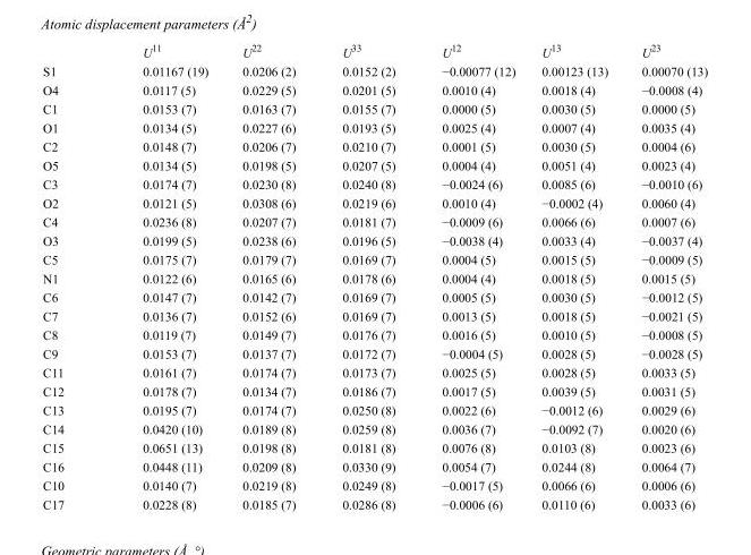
<table><thead><tr><td></td><td>U<sup>11</sup></td><td>U<sup>22</sup></td><td>U<sup>33</sup></td><td>U<sup>12</sup></td><td>U<sup>13</sup></td><td>U<sup>23</sup></td></tr></thead><tbody><tr><td>S1</td><td>0.01167 (19)</td><td>0.0206 (2)</td><td>0.0152 (2)</td><td>−0.00077 (12)</td><td>0.00123 (13)</td><td>0.00070 (13)</td></tr><tr><td>O4</td><td>0.0117 (5)</td><td>0.0229 (5)</td><td>0.0201 (5)</td><td>0.0010 (4)</td><td>0.0018 (4)</td><td>−0.0008 (4)</td></tr><tr><td>C1</td><td>0.0153 (7)</td><td>0.0163 (7)</td><td>0.0155 (7)</td><td>0.0000 (5)</td><td>0.0030 (5)</td><td>0.0000 (5)</td></tr><tr><td>O1</td><td>0.0134 (5)</td><td>0.0227 (6)</td><td>0.0193 (5)</td><td>0.0025 (4)</td><td>0.0007 (4)</td><td>0.0035 (4)</td></tr><tr><td>C2</td><td>0.0148 (7)</td><td>0.0206 (7)</td><td>0.0210 (7)</td><td>0.0001 (5)</td><td>0.0030 (5)</td><td>0.0004 (6)</td></tr><tr><td>O5</td><td>0.0134 (5)</td><td>0.0198 (5)</td><td>0.0207 (5)</td><td>0.0004 (4)</td><td>0.0051 (4)</td><td>0.0023 (4)</td></tr><tr><td>C3</td><td>0.0174 (7)</td><td>0.0230 (8)</td><td>0.0240 (8)</td><td>−0.0024 (6)</td><td>0.0085 (6)</td><td>−0.0010 (6)</td></tr><tr><td>O2</td><td>0.0121 (5)</td><td>0.0308 (6)</td><td>0.0219 (6)</td><td>0.0010 (4)</td><td>−0.0002 (4)</td><td>0.0060 (4)</td></tr><tr><td>C4</td><td>0.0236 (8)</td><td>0.0207 (7)</td><td>0.0181 (7)</td><td>−0.0009 (6)</td><td>0.0066 (6)</td><td>0.0007 (6)</td></tr><tr><td>O3</td><td>0.0199 (5)</td><td>0.0238 (6)</td><td>0.0196 (5)</td><td>−0.0038 (4)</td><td>0.0033 (4)</td><td>−0.0037 (4)</td></tr><tr><td>C5</td><td>0.0175 (7)</td><td>0.0179 (7)</td><td>0.0169 (7)</td><td>0.0004 (5)</td><td>0.0015 (5)</td><td>−0.0009 (5)</td></tr><tr><td>N1</td><td>0.0122 (6)</td><td>0.0165 (6)</td><td>0.0178 (6)</td><td>0.0004 (4)</td><td>0.0018 (5)</td><td>0.0015 (5)</td></tr><tr><td>C6</td><td>0.0147 (7)</td><td>0.0142 (7)</td><td>0.0169 (7)</td><td>0.0005 (5)</td><td>0.0030 (5)</td><td>−0.0012 (5)</td></tr><tr><td>C7</td><td>0.0136 (7)</td><td>0.0152 (6)</td><td>0.0169 (7)</td><td>0.0013 (5)</td><td>0.0018 (5)</td><td>−0.0021 (5)</td></tr><tr><td>C8</td><td>0.0119 (7)</td><td>0.0149 (7)</td><td>0.0176 (7)</td><td>0.0016 (5)</td><td>0.0010 (5)</td><td>−0.0008 (5)</td></tr><tr><td>C9</td><td>0.0153 (7)</td><td>0.0137 (7)</td><td>0.0172 (7)</td><td>−0.0004 (5)</td><td>0.0028 (5)</td><td>−0.0028 (5)</td></tr><tr><td>C11</td><td>0.0161 (7)</td><td>0.0174 (7)</td><td>0.0173 (7)</td><td>0.0025 (5)</td><td>0.0028 (5)</td><td>0.0033 (5)</td></tr><tr><td>C12</td><td>0.0178 (7)</td><td>0.0134 (7)</td><td>0.0186 (7)</td><td>0.0017 (5)</td><td>0.0039 (5)</td><td>0.0031 (5)</td></tr><tr><td>C13</td><td>0.0195 (7)</td><td>0.0174 (7)</td><td>0.0250 (8)</td><td>0.0022 (6)</td><td>−0.0012 (6)</td><td>0.0029 (6)</td></tr><tr><td>C14</td><td>0.0420 (10)</td><td>0.0189 (8)</td><td>0.0259 (8)</td><td>0.0036 (7)</td><td>−0.0092 (7)</td><td>0.0020 (6)</td></tr><tr><td>C15</td><td>0.0651 (13)</td><td>0.0198 (8)</td><td>0.0181 (8)</td><td>0.0076 (8)</td><td>0.0103 (8)</td><td>0.0023 (6)</td></tr><tr><td>C16</td><td>0.0448 (11)</td><td>0.0209 (8)</td><td>0.0330 (9)</td><td>0.0054 (7)</td><td>0.0244 (8)</td><td>0.0064 (7)</td></tr><tr><td>C10</td><td>0.0140 (7)</td><td>0.0219 (8)</td><td>0.0249 (8)</td><td>−0.0017 (5)</td><td>0.0066 (6)</td><td>0.0006 (6)</td></tr><tr><td>C17</td><td>0.0228 (8)</td><td>0.0185 (7)</td><td>0.0286 (8)</td><td>−0.0006 (6)</td><td>0.0110 (6)</td><td>0.0033 (6)</td></tr></tbody></table>